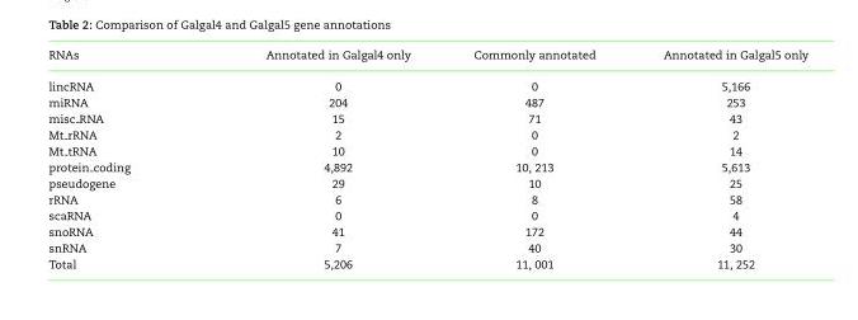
<table><thead><tr><td>RNAs</td><td>Annotated in Galgal4 only</td><td>Commonly annotated</td><td>Annotated in Galgal5 only</td></tr></thead><tbody><tr><td>lincRNA</td><td>0</td><td>0</td><td>5,166</td></tr><tr><td>miRNA</td><td>204</td><td>487</td><td>253</td></tr><tr><td>misc RNA</td><td>15</td><td>71</td><td>43</td></tr><tr><td>Mt rRNA</td><td>2</td><td>0</td><td>2</td></tr><tr><td>Mt tRNA</td><td>10</td><td>0</td><td>14</td></tr><tr><td>protein coding</td><td>4,892</td><td>10, 213</td><td>5,613</td></tr><tr><td>pseudogene</td><td>29</td><td>10</td><td>25</td></tr><tr><td>rRNA</td><td>6</td><td>8</td><td>58</td></tr><tr><td>scaRNA</td><td>0</td><td>0</td><td>4</td></tr><tr><td>snoRNA</td><td>41</td><td>172</td><td>44</td></tr><tr><td>snRNA</td><td>7</td><td>40</td><td>30</td></tr><tr><td>Total</td><td>5,206</td><td>11, 001</td><td>11, 252</td></tr></tbody></table>